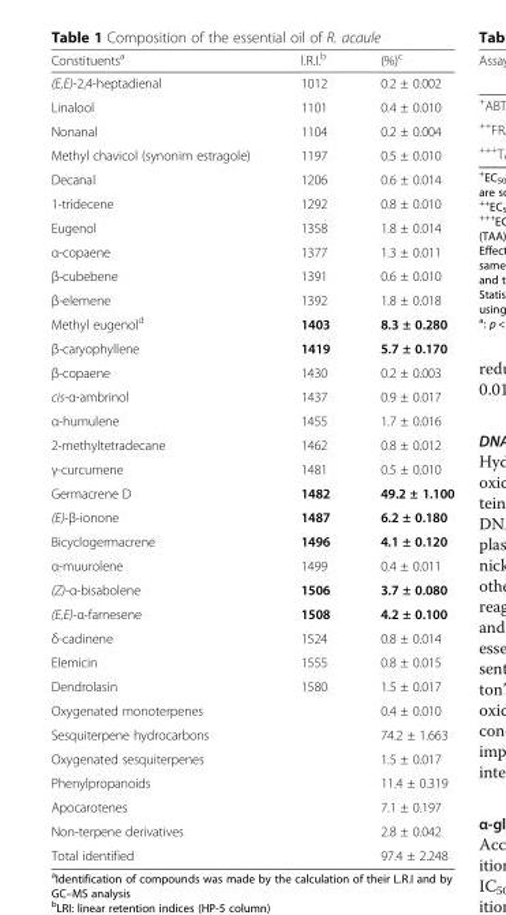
<table><thead><tr><td>Constituents<sup>a</sup></td><td>l.R.I.<sup>b</sup></td><td>(%)<sup>c</sup></td></tr></thead><tbody><tr><td>(E,E)-2,4-heptadienal</td><td>1012</td><td>0.2 ± 0.002</td></tr><tr><td>Linalool</td><td>1101</td><td>0.4 ± 0.010</td></tr><tr><td>Nonanal</td><td>1104</td><td>0.2 ± 0.004</td></tr><tr><td>Methyl chavicol (synonim estragole)</td><td>1197</td><td>0.5 ± 0.010</td></tr><tr><td>Decanal</td><td>1206</td><td>0.6 ± 0.014</td></tr><tr><td>1-tridecene</td><td>1292</td><td>0.8 ± 0.010</td></tr><tr><td>Eugenol</td><td>1358</td><td>1.8 ± 0.014</td></tr><tr><td>α-copaene</td><td>1377</td><td>1.3 ± 0.011</td></tr><tr><td>β-cubebene</td><td>1391</td><td>0.6 ± 0.010</td></tr><tr><td>β-elemene</td><td>1392</td><td>1.8 ± 0.018</td></tr><tr><td>Methyl eugenol<sup>d</sup></td><td>1403</td><td>8.3 ± 0.280</td></tr><tr><td>β-caryophyllene</td><td>1419</td><td>5.7 ± 0.170</td></tr><tr><td>β-copaene</td><td>1430</td><td>0.2 ± 0.003</td></tr><tr><td>cis-α-ambrinol</td><td>1437</td><td>0.9 ± 0.017</td></tr><tr><td>α-humulene</td><td>1455</td><td>1.7 ± 0.016</td></tr><tr><td>2-methyltetradecane</td><td>1462</td><td>0.8 ± 0.012</td></tr><tr><td>γ-curcumene</td><td>1481</td><td>0.5 ± 0.010</td></tr><tr><td>Germacrene D</td><td>1482</td><td>49.2 ± 1.100</td></tr><tr><td>(E)-β-ionone</td><td>1487</td><td>6.2 ± 0.180</td></tr><tr><td>Bicyclogermacrene</td><td>1496</td><td>4.1 ± 0.120</td></tr><tr><td>α-muurolene</td><td>1499</td><td>0.4 ± 0.011</td></tr><tr><td>(Z)-α-bisabolene</td><td>1506</td><td>3.7 ± 0.080</td></tr><tr><td>(E,E)-α-farnesene</td><td>1508</td><td>4.2 ± 0.100</td></tr><tr><td>δ-cadinene</td><td>1524</td><td>0.8 ± 0.014</td></tr><tr><td>Elemicin</td><td>1555</td><td>0.8 ± 0.015</td></tr><tr><td>Dendrolasin</td><td>1580</td><td>1.5 ± 0.017</td></tr><tr><td>Oxygenated monoterpenes</td><td></td><td>0.4 ± 0.010</td></tr><tr><td>Sesquiterpene hydrocarbons</td><td></td><td>74.2 ± 1.663</td></tr><tr><td>Oxygenated sesquiterpenes</td><td></td><td>1.5 ± 0.017</td></tr><tr><td>Phenylpropanoids</td><td></td><td>11.4 ± 0.319</td></tr><tr><td>Apocarotenes</td><td></td><td>7.1 ± 0.197</td></tr><tr><td>Non-terpene derivatives</td><td></td><td>2.8 ± 0.042</td></tr><tr><td>Total identified</td><td></td><td>97.4 ± 2.248</td></tr></tbody></table>